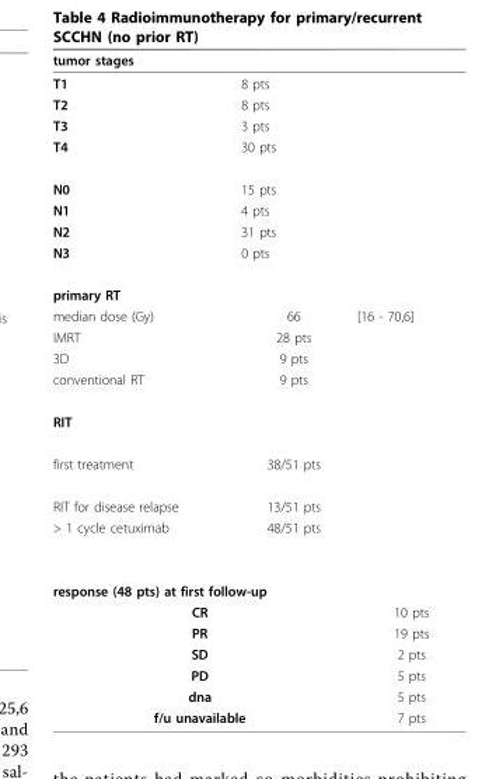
<table><thead><tr><td colspan="2">tumor stages</td><td rowspan="2"></td></tr><tr><td>T1</td><td>8 pts</td></tr></thead><tbody><tr><td>T2</td><td>8 pts</td><td></td></tr><tr><td>T3</td><td>3 pts</td><td></td></tr><tr><td>T4</td><td>30 pts</td><td></td></tr><tr><td>N0</td><td>15 pts</td><td></td></tr><tr><td>N1</td><td>4 pts</td><td></td></tr><tr><td>N2</td><td>31 pts</td><td></td></tr><tr><td>N3</td><td>0 pts</td><td></td></tr><tr><td colspan="3">primary RT</td></tr><tr><td>median dose (Gy)</td><td>66</td><td>[16 - 70,6]</td></tr><tr><td>IMRT</td><td>28 pts</td><td></td></tr><tr><td>3D</td><td>9 pts</td><td></td></tr><tr><td>conventional RT</td><td>9 pts</td><td></td></tr><tr><td colspan="3">RIT</td></tr><tr><td>first treatment</td><td>38/51 pts</td><td></td></tr><tr><td>RIT for disease relapse</td><td>13/51 pts</td><td></td></tr><tr><td>&gt; 1 cycle cetuximab</td><td>48/51 pts</td><td></td></tr><tr><td colspan="3">response (48 pts) at first follow-up</td></tr><tr><td colspan="2">CR</td><td>10 pts</td></tr><tr><td colspan="2">PR</td><td>19 pts</td></tr><tr><td colspan="2">SD</td><td>2 pts</td></tr><tr><td colspan="2">PD</td><td>5 pts</td></tr><tr><td colspan="2">dna</td><td>5 pts</td></tr><tr><td colspan="2">f/u unavailable</td><td>7 pts</td></tr></tbody></table>